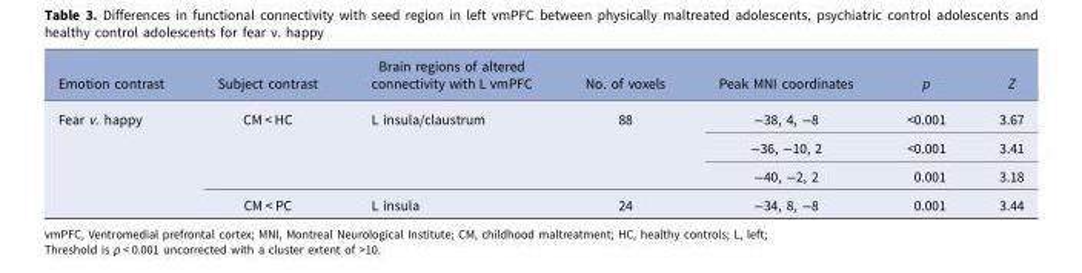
<table><thead><tr><td>Emotion contrast</td><td>Subject contrast</td><td>Brain regions of altered connectivity with L vmPFC</td><td>No. of voxels</td><td>Peak MNI coordinates</td><td>p</td><td>Z</td></tr></thead><tbody><tr><td rowspan="4">Fear v. happy</td><td rowspan="3">CM &lt; HC</td><td rowspan="3">L insula/claustrum</td><td rowspan="3">88</td><td>−38, 4, −8</td><td>&lt;0.001</td><td>3.67</td></tr><tr><td>−36, −10, 2</td><td>&lt;0.001</td><td>3.41</td></tr><tr><td>−40, −2, 2</td><td>0.001</td><td>3.18</td></tr><tr><td>CM &lt; PC</td><td>L insula</td><td>24</td><td>−34, 8, −8</td><td>0.001</td><td>3.44</td></tr></tbody></table>